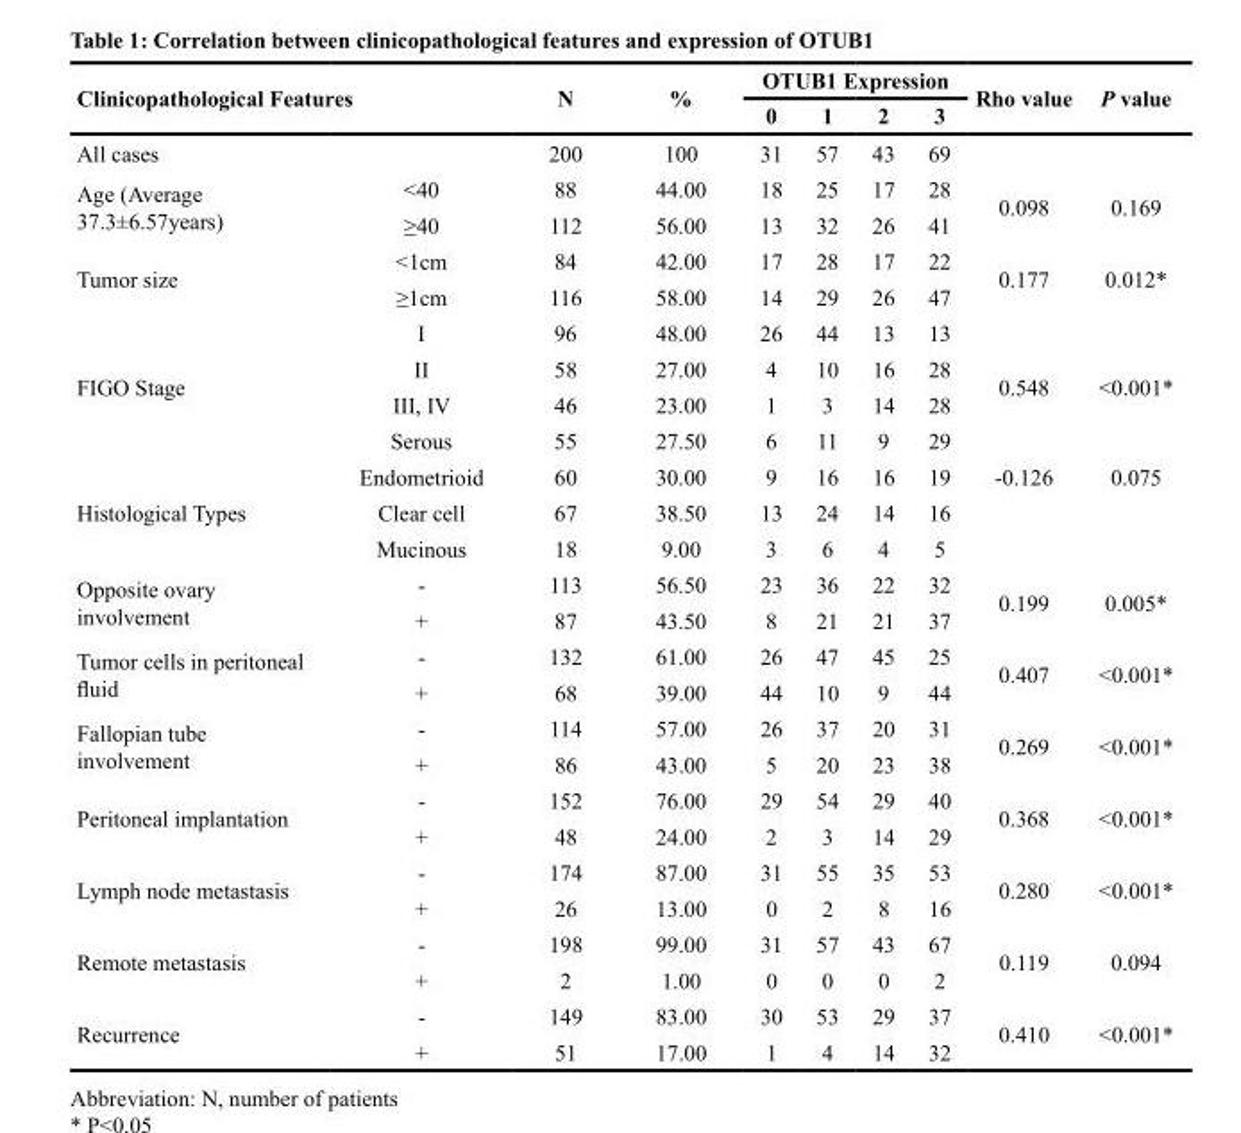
<table><thead><tr><td rowspan="2" colspan="2">Clinicopathological Features</td><td rowspan="3">N 200</td><td rowspan="3">% 100</td><td colspan="4">OTUB1 Expression</td><td rowspan="3">Rho value</td><td rowspan="3">P value</td></tr><tr><td rowspan="2">0 31</td><td rowspan="2">1 57</td><td rowspan="2">2 43</td><td rowspan="2">3 69</td></tr><tr><td>All cases</td><td></td></tr></thead><tbody><tr><td rowspan="2">Age (Average 37.3±6.57years)</td><td>&lt;40</td><td>88</td><td>44.00</td><td>18</td><td>25</td><td>17</td><td>28</td><td rowspan="2">0.098</td><td rowspan="2">0.169</td></tr><tr><td>≥40</td><td>112</td><td>56.00</td><td>13</td><td>32</td><td>26</td><td>41</td></tr><tr><td rowspan="2">Tumor size</td><td>&lt;1cm</td><td>84</td><td>42.00</td><td>17</td><td>28</td><td>17</td><td>22</td><td rowspan="2">0.177</td><td rowspan="2">0.012*</td></tr><tr><td>≥1cm</td><td>116</td><td>58.00</td><td>14</td><td>29</td><td>26</td><td>47</td></tr><tr><td rowspan="4">FIGO Stage</td><td>I</td><td>96</td><td>48.00</td><td>26</td><td>44</td><td>13</td><td>13</td><td rowspan="4">0.548</td><td rowspan="4">&lt;0.001*</td></tr><tr><td>II</td><td>58</td><td>27.00</td><td>4</td><td>10</td><td>16</td><td>28</td></tr><tr><td>III, IV</td><td>46</td><td>23.00</td><td>1</td><td>3</td><td>14</td><td>28</td></tr><tr><td>Serous</td><td>55</td><td>27.50</td><td>6</td><td>11</td><td>9</td><td>29</td></tr><tr><td rowspan="3">Histological Types</td><td>Endometrioid</td><td>60</td><td>30.00</td><td>9</td><td>16</td><td>16</td><td>19</td><td rowspan="3">-0.126</td><td rowspan="3">0.075</td></tr><tr><td>Clear cell</td><td>67</td><td>38.50</td><td>13</td><td>24</td><td>14</td><td>16</td></tr><tr><td>Mucinous</td><td>18</td><td>9.00</td><td>3</td><td>6</td><td>4</td><td>5</td></tr><tr><td rowspan="2">Opposite ovary involvement</td><td>-</td><td>113</td><td>56.50</td><td>23</td><td>36</td><td>22</td><td>32</td><td rowspan="2">0.199</td><td rowspan="2">0.005*</td></tr><tr><td>+</td><td>87</td><td>43.50</td><td>8</td><td>21</td><td>21</td><td>37</td></tr><tr><td rowspan="2">Tumor cells in peritoneal fluid</td><td>-</td><td>132</td><td>61.00</td><td>26</td><td>47</td><td>45</td><td>25</td><td rowspan="2">0.407</td><td rowspan="2">&lt;0.001*</td></tr><tr><td>+</td><td>68</td><td>39.00</td><td>44</td><td>10</td><td>9</td><td>44</td></tr><tr><td rowspan="2">Fallopian tube involvement</td><td>-</td><td>114</td><td>57.00</td><td>26</td><td>37</td><td>20</td><td>31</td><td rowspan="2">0.269</td><td rowspan="2">&lt;0.001*</td></tr><tr><td>+</td><td>86</td><td>43.00</td><td>5</td><td>20</td><td>23</td><td>38</td></tr><tr><td rowspan="2">Peritoneal implantation</td><td>-</td><td>152</td><td>76.00</td><td>29</td><td>54</td><td>29</td><td>40</td><td rowspan="2">0.368</td><td rowspan="2">&lt;0.001*</td></tr><tr><td>+</td><td>48</td><td>24.00</td><td>2</td><td>3</td><td>14</td><td>29</td></tr><tr><td rowspan="2">Lymph node metastasis</td><td>-</td><td>174</td><td>87.00</td><td>31</td><td>55</td><td>35</td><td>53</td><td rowspan="2">0.280</td><td rowspan="2">&lt;0.001*</td></tr><tr><td>+</td><td>26</td><td>13.00</td><td>0</td><td>2</td><td>8</td><td>16</td></tr><tr><td rowspan="2">Remote metastasis</td><td>-</td><td>198</td><td>99.00</td><td>31</td><td>57</td><td>43</td><td>67</td><td rowspan="2">0.119</td><td rowspan="2">0.094</td></tr><tr><td>+</td><td>2</td><td>1.00</td><td>0</td><td>0</td><td>0</td><td>2</td></tr><tr><td rowspan="2">Recurrence</td><td>-</td><td>149</td><td>83.00</td><td>30</td><td>53</td><td>29</td><td>37</td><td rowspan="2">0.410</td><td rowspan="2">&lt;0.001*</td></tr><tr><td>+</td><td>51</td><td>17.00</td><td>1</td><td>4</td><td>14</td><td>32</td></tr></tbody></table>